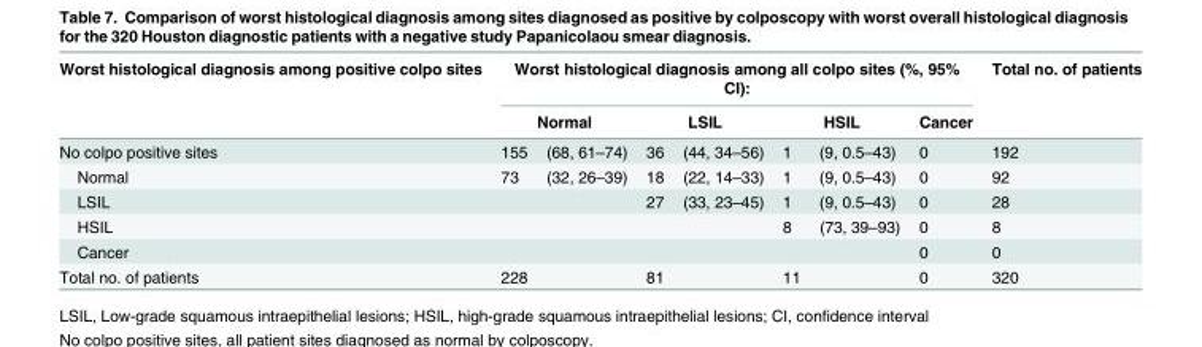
<table><thead><tr><td rowspan="3">Worst histological diagnosis among positive colpo sites No colpo positive sites</td><td colspan="7">Worst histological diagnosis among all colpo sites (%, 95% CI):</td><td rowspan="3">Total no. of patients 192</td></tr><tr><td colspan="2">Normal</td><td colspan="2">LSIL</td><td colspan="2">HSIL</td><td rowspan="2">Cancer 0</td></tr><tr><td>155</td><td>(68, 61–74)</td><td>36</td><td>(44, 34–56)</td><td>1</td><td>(9, 0.5–43)</td></tr></thead><tbody><tr><td>Normal</td><td>73</td><td>(32, 26–39)</td><td>18</td><td>(22, 14–33)</td><td>1</td><td>(9, 0.5–43)</td><td>0</td><td>92</td></tr><tr><td>LSIL</td><td></td><td></td><td>27</td><td>(33, 23–45)</td><td>1</td><td>(9, 0.5–43)</td><td>0</td><td>28</td></tr><tr><td>HSIL</td><td></td><td></td><td></td><td></td><td>8</td><td>(73, 39–93)</td><td>0</td><td>8</td></tr><tr><td>Cancer</td><td></td><td></td><td></td><td></td><td></td><td></td><td>0</td><td>0</td></tr><tr><td>Total no. of patients</td><td>228</td><td></td><td>81</td><td></td><td>11</td><td></td><td>0</td><td>320</td></tr></tbody></table>